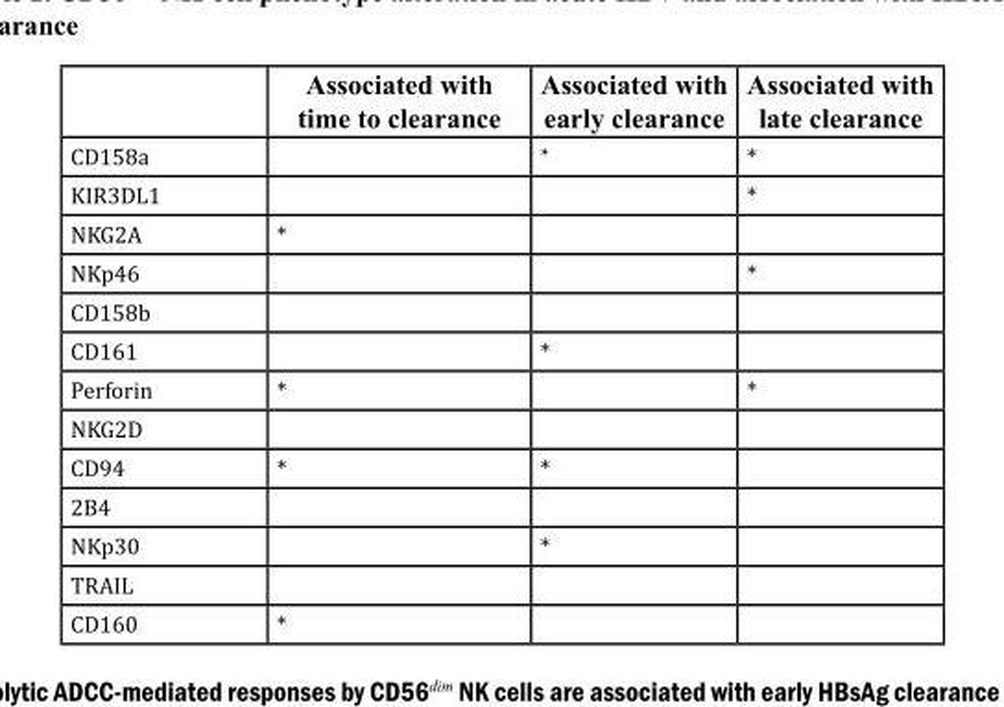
<table><thead><tr><td></td><td>Associated with time to clearance</td><td>Associated with early clearance</td><td>Associated with late clearance</td></tr></thead><tbody><tr><td>CD158a</td><td></td><td>*</td><td>*</td></tr><tr><td>KIR3DL1</td><td></td><td></td><td>*</td></tr><tr><td>NKG2A</td><td>*</td><td></td><td></td></tr><tr><td>NKp46</td><td></td><td></td><td>*</td></tr><tr><td colspan="4">CD158b</td></tr><tr><td>CD161</td><td></td><td>*</td><td></td></tr><tr><td>Perforin</td><td>*</td><td></td><td>*</td></tr><tr><td colspan="4">NKG2D</td></tr><tr><td>CD94</td><td>*</td><td>*</td><td></td></tr><tr><td colspan="4">2B4</td></tr><tr><td>NKp30</td><td></td><td>*</td><td></td></tr><tr><td colspan="4">TRAIL</td></tr><tr><td>CD160</td><td>*</td><td></td><td></td></tr></tbody></table>